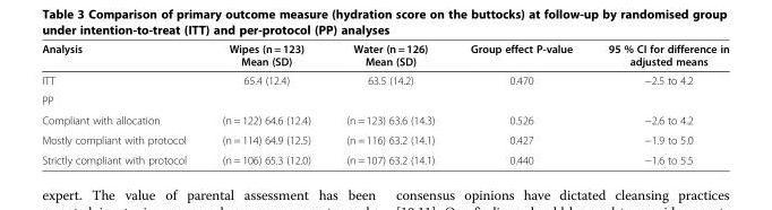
<table><thead><tr><td>Analysis</td><td>Wipes (n = 123) Mean (SD)</td><td>Water (n = 126) Mean (SD)</td><td>Group effect P-value</td><td>95 % CI for difference in adjusted means</td></tr></thead><tbody><tr><td>ITT</td><td>65.4 (12.4)</td><td>63.5 (14.2)</td><td>0.470</td><td>−2.5 to 4.2</td></tr><tr><td colspan="5">PP</td></tr><tr><td>Compliant with allocation</td><td>(n = 122) 64.6 (12.4)</td><td>(n = 123) 63.6 (14.3)</td><td>0.526</td><td>−2.6 to 4.2</td></tr><tr><td>Mostly compliant with protocol</td><td>(n = 114) 64.9 (12.5)</td><td>(n = 116) 63.2 (14.1)</td><td>0.427</td><td>−1.9 to 5.0</td></tr><tr><td>Strictly compliant with protocol</td><td>(n = 106) 65.3 (12.0)</td><td>(n = 107) 63.2 (14.1)</td><td>0.440</td><td>−1.6 to 5.5</td></tr></tbody></table>